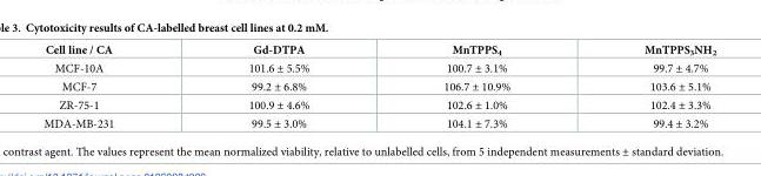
<table><thead><tr><td>Cell line / CA</td><td>Gd-DTPA</td><td>MnTPPS<sub>4</sub></td><td>MnTPPS<sub>3</sub>NH<sub>2</sub></td></tr></thead><tbody><tr><td>MCF-10A</td><td>101.6 ± 5.5%</td><td>100.7 ± 3.1%</td><td>99.7 ± 4.7%</td></tr><tr><td>MCF-7</td><td>99.2 ± 6.8%</td><td>106.7 ± 10.9%</td><td>103.6 ± 5.1%</td></tr><tr><td>ZR-75-1</td><td>100.9 ± 4.6%</td><td>102.6 ± 1.0%</td><td>102.4 ± 3.3%</td></tr><tr><td>MDA-MB-231</td><td>99.5 ± 3.0%</td><td>104.1 ± 7.3%</td><td>99.4 ± 3.2%</td></tr></tbody></table>